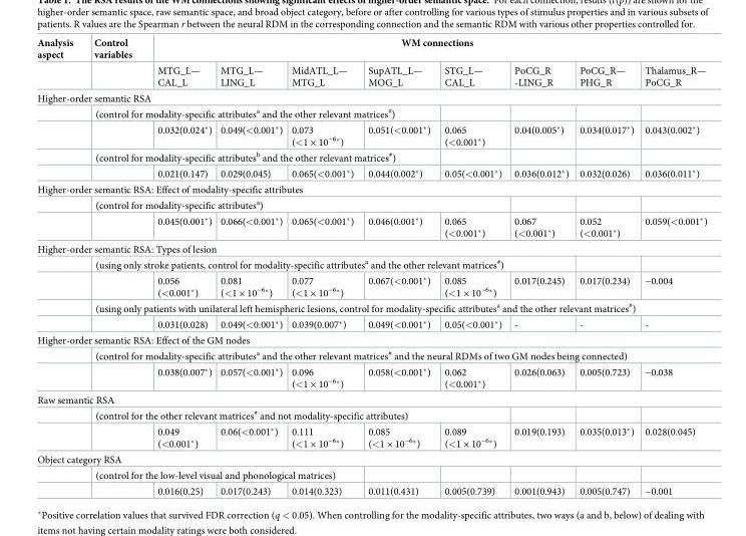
<table><thead><tr><td rowspan="2">Analysis aspect</td><td rowspan="2">Control variables</td><td colspan="8">WM connections</td></tr><tr><td>MTG_L— CAL_L</td><td>MTG_L— LING_L</td><td>MidATL_L— MTG_L</td><td>SupATL_L— MOG_L</td><td>STG_L— CAL_L</td><td>PoCG_R -LING_R</td><td>PoCG_R— PHG_R</td><td>Thalamus_R— PoCG_R</td></tr></thead><tbody><tr><td colspan="10">Higher-order semantic RSA</td></tr><tr><td></td><td colspan="5">(control for modality-specific attributes<sup>a</sup> and the other relevant matrices<sup>#</sup>)</td><td></td><td></td><td></td><td></td></tr><tr><td></td><td></td><td>0.032(0.024*)</td><td>0.049(&lt;0.001*)</td><td>0.073 (&lt;1 × 10<sup>−6</sup>*)</td><td>0.051(&lt;0.001*)</td><td>0.065 (&lt;0.001*)</td><td>0.04(0.005*)</td><td>0.034(0.017*)</td><td>0.043(0.002*)</td></tr><tr><td></td><td colspan="5">(control for modality-specific attributes<sup>b</sup> and the other relevant matrices<sup>#</sup>)</td><td></td><td></td><td></td><td></td></tr><tr><td></td><td></td><td>0.021(0.147)</td><td>0.029(0.045)</td><td>0.065(&lt;0.001*)</td><td>0.044(0.002*)</td><td>0.05(&lt;0.001*)</td><td>0.036(0.012*)</td><td>0.032(0.026)</td><td>0.036(0.011*)</td></tr><tr><td colspan="10">Higher-order semantic RSA: Effect of modality-specific attributes</td></tr><tr><td></td><td colspan="6">(control for modality-specific attributes<sup>a</sup>)</td><td></td><td></td><td></td></tr><tr><td></td><td></td><td>0.045(0.001*)</td><td>0.066(&lt;0.001*)</td><td>0.065(&lt;0.001*)</td><td>0.046(0.001*)</td><td>0.065 (&lt;0.001*)</td><td>0.067 (&lt;0.001*)</td><td>0.052 (&lt;0.001*)</td><td>0.059(&lt;0.001*)</td></tr><tr><td colspan="10">Higher-order semantic RSA: Types of lesion</td></tr><tr><td></td><td colspan="7">(using only stroke patients, control for modality-specific attributes<sup>a</sup> and the other relevant matrices<sup>#</sup>)</td><td></td><td></td></tr><tr><td></td><td></td><td>0.056 (&lt;0.001*)</td><td>0.081 (&lt;1 × 10<sup>−6</sup>*)</td><td>0.077 (&lt;1 × 10<sup>−6</sup>*)</td><td>0.067(&lt;0.001*)</td><td>0.085 (&lt;1 × 10<sup>−6</sup>*)</td><td>0.017(0.245)</td><td>0.017(0.234)</td><td>−0.004</td></tr><tr><td></td><td colspan="9">(using only patients with unilateral left hemispheric lesions, control for modality-specific attributes<sup>a</sup> and the other relevant matrices<sup>#</sup>)</td></tr><tr><td></td><td></td><td>0.031(0.028)</td><td>0.049(&lt;0.001*)</td><td>0.039(0.007*)</td><td>0.049(&lt;0.001*)</td><td>0.05(&lt;0.001*)</td><td>-</td><td>-</td><td>-</td></tr><tr><td colspan="10">Higher-order semantic RSA: Effect of the GM nodes</td></tr><tr><td></td><td colspan="9">(control for modality-specific attributes<sup>a</sup> and the other relevant matrices<sup>#</sup> and the neural RDMs of two GM nodes being connected)</td></tr><tr><td></td><td></td><td>0.038(0.007*)</td><td>0.057(&lt;0.001*)</td><td>0.096 (&lt;1 × 10<sup>−6</sup>*)</td><td>0.058(&lt;0.001*)</td><td>0.062 (&lt;0.001*)</td><td>0.026(0.063)</td><td>0.005(0.723)</td><td>−0.038</td></tr><tr><td colspan="10">Raw semantic RSA</td></tr><tr><td></td><td colspan="6">(control for the other relevant matrices<sup>#</sup> and not modality-specific attributes)</td><td></td><td></td><td></td></tr><tr><td></td><td></td><td>0.049 (&lt;0.001*)</td><td>0.06(&lt;0.001*)</td><td>0.111 (&lt;1 × 10<sup>−6</sup>*)</td><td>0.085 (&lt;1 × 10<sup>−6</sup>*)</td><td>0.089 (&lt;1 × 10<sup>−6</sup>*)</td><td>0.019(0.193)</td><td>0.035(0.013*)</td><td>0.028(0.045)</td></tr><tr><td colspan="10">Object category RSA</td></tr><tr><td></td><td colspan="4">(control for the low-level visual and phonological matrices)</td><td></td><td></td><td></td><td></td><td></td></tr><tr><td></td><td></td><td>0.016(0.25)</td><td>0.017(0.243)</td><td>0.014(0.323)</td><td>0.011(0.431)</td><td>0.005(0.739)</td><td>0.001(0.943)</td><td>0.005(0.747)</td><td>−0.001</td></tr></tbody></table>